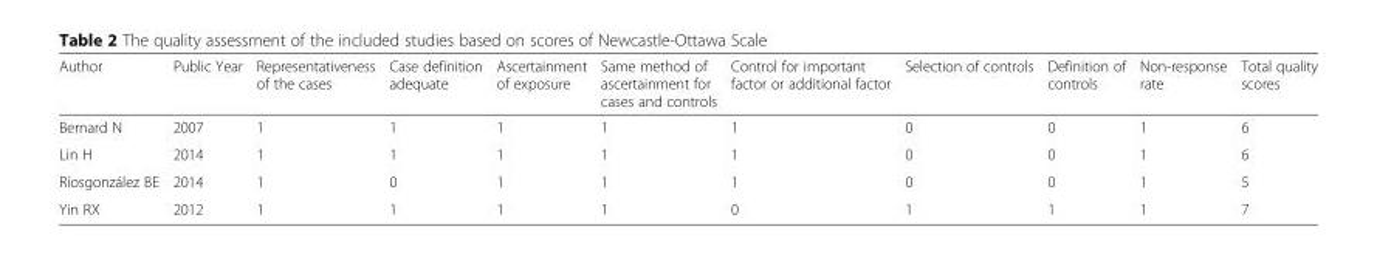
<table><thead><tr><td>Author</td><td>Public Year</td><td>Representativeness of the cases</td><td>Case definition adequate</td><td>Ascertainment of exposure</td><td>Same method of ascertainment for cases and controls</td><td>Control for important factor or additional factor</td><td>Selection of controls</td><td>Definition of controls</td><td>Non-response rate</td><td>Total quality scores</td></tr></thead><tbody><tr><td>Bernard N</td><td>2007</td><td>1</td><td>1</td><td>1</td><td>1</td><td>1</td><td>0</td><td>0</td><td>1</td><td>6</td></tr><tr><td>Lin H</td><td>2014</td><td>1</td><td>1</td><td>1</td><td>1</td><td>1</td><td>0</td><td>0</td><td>1</td><td>6</td></tr><tr><td>Ríosgonzález BE</td><td>2014</td><td>1</td><td>0</td><td>1</td><td>1</td><td>1</td><td>0</td><td>0</td><td>1</td><td>5</td></tr><tr><td>Yin RX</td><td>2012</td><td>1</td><td>1</td><td>1</td><td>1</td><td>0</td><td>1</td><td>1</td><td>1</td><td>7</td></tr></tbody></table>